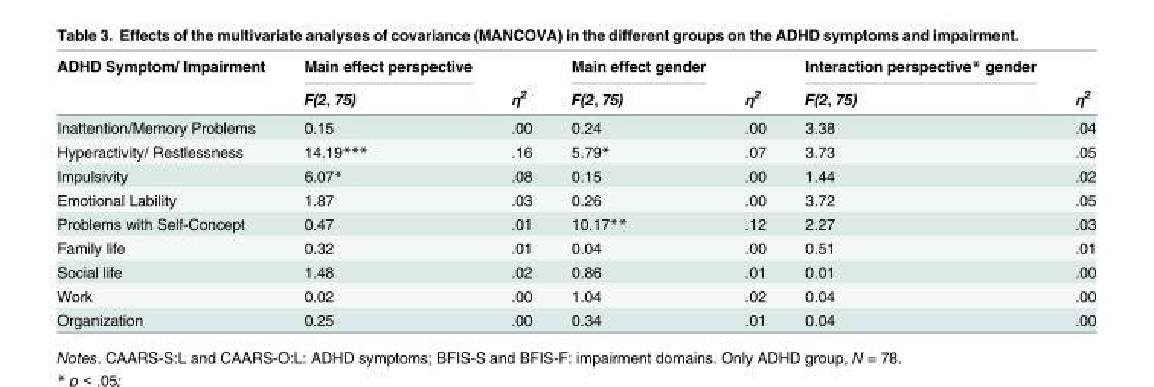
<table><thead><tr><td rowspan="2">ADHD Symptom/ Impairment</td><td rowspan="2">Main effect perspective F(2, 75)</td><td rowspan="2">η<sup>2</sup></td><td rowspan="2">Main effect gender F(2, 75)</td><td rowspan="2">η<sup>2</sup></td><td rowspan="2">Interaction perspective* gender F(2, 75)</td><td rowspan="2">η<sup>2</sup></td></tr><tr></tr></thead><tbody><tr><td>Inattention/Memory Problems</td><td>0.15</td><td>.00</td><td>0.24</td><td>.00</td><td>3.38</td><td>.04</td></tr><tr><td>Hyperactivity/ Restlessness</td><td>14.19***</td><td>.16</td><td>5.79*</td><td>.07</td><td>3.73</td><td>.05</td></tr><tr><td>Impulsivity</td><td>6.07*</td><td>.08</td><td>0.15</td><td>.00</td><td>1.44</td><td>.02</td></tr><tr><td>Emotional Lability</td><td>1.87</td><td>.03</td><td>0.26</td><td>.00</td><td>3.72</td><td>.05</td></tr><tr><td>Problems with Self-Concept</td><td>0.47</td><td>.01</td><td>10.17**</td><td>.12</td><td>2.27</td><td>.03</td></tr><tr><td>Family life</td><td>0.32</td><td>.01</td><td>0.04</td><td>.00</td><td>0.51</td><td>.01</td></tr><tr><td>Social life</td><td>1.48</td><td>.02</td><td>0.86</td><td>.01</td><td>0.01</td><td>.00</td></tr><tr><td>Work</td><td>0.02</td><td>.00</td><td>1.04</td><td>.02</td><td>0.04</td><td>.00</td></tr><tr><td>Organization</td><td>0.25</td><td>.00</td><td>0.34</td><td>.01</td><td>0.04</td><td>.00</td></tr></tbody></table>